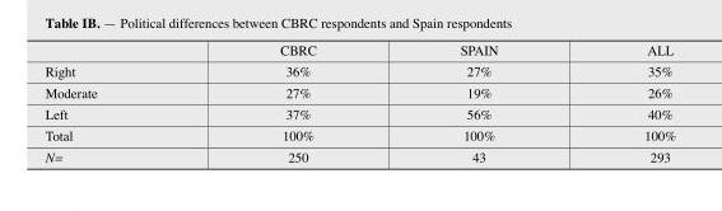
<table><thead><tr><td></td><td>CBRC</td><td>SPAIN</td><td>ALL</td></tr></thead><tbody><tr><td>Right</td><td>36%</td><td>27%</td><td>35%</td></tr><tr><td>Moderate</td><td>27%</td><td>19%</td><td>26%</td></tr><tr><td>Left</td><td>37%</td><td>56%</td><td>40%</td></tr><tr><td>Total</td><td>100%</td><td>100%</td><td>100%</td></tr><tr><td>N=</td><td>250</td><td>43</td><td>293</td></tr></tbody></table>